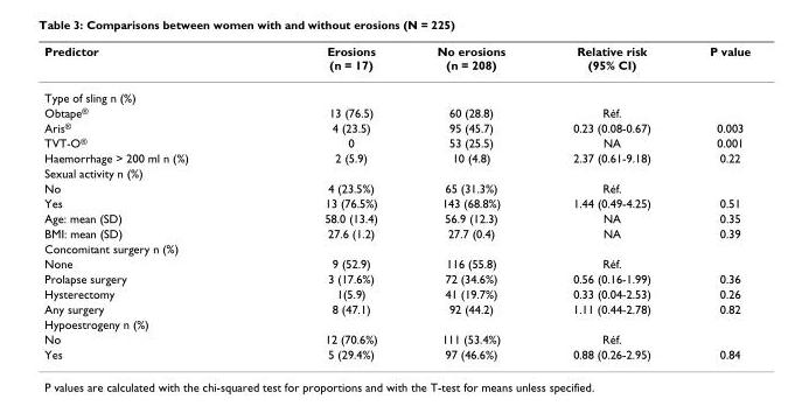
<table><thead><tr><td>Predictor</td><td>Erosions (n = 17)</td><td>No erosions (n = 208)</td><td>Relative risk (95% CI)</td><td>P value</td></tr></thead><tbody><tr><td colspan="5">Type of sling n (%)</td></tr><tr><td>Obtape<sup>®</sup></td><td>13 (76.5)</td><td>60 (28.8)</td><td>Réf.</td><td></td></tr><tr><td>Aris<sup>®</sup></td><td>4 (23.5)</td><td>95 (45.7)</td><td>0.23 (0.08-0.67)</td><td>0.003</td></tr><tr><td>TVT-O<sup>®</sup></td><td>0</td><td>53 (25.5)</td><td>NA</td><td>0.001</td></tr><tr><td>Haemorrhage &gt; 200 ml n (%)</td><td>2 (5.9)</td><td>10 (4.8)</td><td>2.37 (0.61-9.18)</td><td>0.22</td></tr><tr><td colspan="5">Sexual activity n (%)</td></tr><tr><td>No</td><td>4 (23.5%)</td><td>65 (31.3%)</td><td>Réf.</td><td></td></tr><tr><td>Yes</td><td>13 (76.5%)</td><td>143 (68.8%)</td><td>1.44 (0.49-4.25)</td><td>0.51</td></tr><tr><td>Age: mean (SD)</td><td>58.0 (13.4)</td><td>56.9 (12.3)</td><td>NA</td><td>0.35</td></tr><tr><td>BMI: mean (SD)</td><td>27.6 (1.2)</td><td>27.7 (0.4)</td><td>NA</td><td>0.39</td></tr><tr><td colspan="5">Concomitant surgery n (%)</td></tr><tr><td>None</td><td>9 (52.9)</td><td>116 (55.8)</td><td>Réf.</td><td></td></tr><tr><td>Prolapse surgery</td><td>3 (17.6%)</td><td>72 (34.6%)</td><td>0.56 (0.16-1.99)</td><td>0.36</td></tr><tr><td>Hysterectomy</td><td>1(5.9)</td><td>41 (19.7%)</td><td>0.33 (0.04-2.53)</td><td>0.26</td></tr><tr><td>Any surgery</td><td>8 (47.1)</td><td>92 (44.2)</td><td>1.11 (0.44-2.78)</td><td>0.82</td></tr><tr><td colspan="5">Hypoestrogeny n (%)</td></tr><tr><td>No</td><td>12 (70.6%)</td><td>111 (53.4%)</td><td>Réf.</td><td></td></tr><tr><td>Yes</td><td>5 (29.4%)</td><td>97 (46.6%)</td><td>0.88 (0.26-2.95)</td><td>0.84</td></tr></tbody></table>